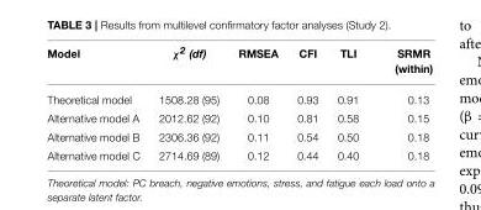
<table><thead><tr><td>Model</td><td>χ2 (df)</td><td>RMSEA</td><td>CFI</td><td>TLI</td><td>SRMR (within)</td></tr></thead><tbody><tr><td>Theoretical model</td><td>1508.28 (95)</td><td>0.08</td><td>0.93</td><td>0.91</td><td>0.13</td></tr><tr><td>Alternative model A</td><td>2012.62 (92)</td><td>0.10</td><td>0.81</td><td>0.58</td><td>0.15</td></tr><tr><td>Alternative model B</td><td>2306.36 (92)</td><td>0.11</td><td>0.54</td><td>0.50</td><td>0.18</td></tr><tr><td>Alternative model C</td><td>2714.69 (89)</td><td>0.12</td><td>0.44</td><td>0.40</td><td>0.18</td></tr></tbody></table>